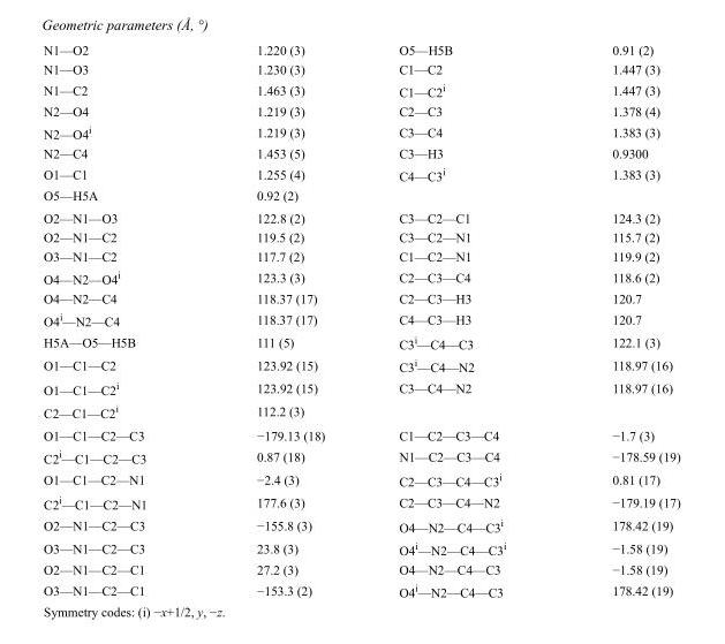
<table><tbody><tr><td>N1—O2</td><td>1.220 (3)</td><td>O5—H5B</td><td>0.91 (2)</td></tr><tr><td>N1—O3</td><td>1.230 (3)</td><td>C1—C2</td><td>1.447 (3)</td></tr><tr><td>N1—C2</td><td>1.463 (3)</td><td>C1—C2i</td><td>1.447 (3)</td></tr><tr><td>N2—O4</td><td>1.219 (3)</td><td>C2—C3</td><td>1.378 (4)</td></tr><tr><td>N2—O4i</td><td>1.219 (3)</td><td>C3—C4</td><td>1.383 (3)</td></tr><tr><td>N2—C4</td><td>1.453 (5)</td><td>C3—H3</td><td>0.9300</td></tr><tr><td>O1—C1</td><td>1.255 (4)</td><td>C4—C3i</td><td>1.383 (3)</td></tr><tr><td>O5—H5A</td><td>0.92 (2)</td><td></td><td></td></tr><tr><td>O2—N1—O3</td><td>122.8 (2)</td><td>C3—C2—C1</td><td>124.3 (2)</td></tr><tr><td>O2—N1—C2</td><td>119.5 (2)</td><td>C3—C2—N1</td><td>115.7 (2)</td></tr><tr><td>O3—N1—C2</td><td>117.7 (2)</td><td>C1—C2—N1</td><td>119.9 (2)</td></tr><tr><td>O4—N2—O4i</td><td>123.3 (3)</td><td>C2—C3—C4</td><td>118.6 (2)</td></tr><tr><td>O4—N2—C4</td><td>118.37 (17)</td><td>C2—C3—H3</td><td>120.7</td></tr><tr><td>O4i—N2—C4</td><td>118.37 (17)</td><td>C4—C3—H3</td><td>120.7</td></tr><tr><td>H5A—O5—H5B</td><td>111 (5)</td><td>C3i—C4—C3</td><td>122.1 (3)</td></tr><tr><td>O1—C1—C2</td><td>123.92 (15)</td><td>C3i—C4—N2</td><td>118.97 (16)</td></tr><tr><td>O1—C1—C2i</td><td>123.92 (15)</td><td>C3—C4—N2</td><td>118.97 (16)</td></tr><tr><td>C2—C1—C2i</td><td>112.2 (3)</td><td></td><td></td></tr><tr><td>O1—C1—C2—C3</td><td>−179.13 (18)</td><td>C1—C2—C3—C4</td><td>−1.7 (3)</td></tr><tr><td>C2i—C1—C2—C3</td><td>0.87 (18)</td><td>N1—C2—C3—C4</td><td>−178.59 (19)</td></tr><tr><td>O1—C1—C2—N1</td><td>−2.4 (3)</td><td>C2—C3—C4—C3i</td><td>0.81 (17)</td></tr><tr><td>C2i—C1—C2—N1</td><td>177.6 (3)</td><td>C2—C3—C4—N2</td><td>−179.19 (17)</td></tr><tr><td>O2—N1—C2—C3</td><td>−155.8 (3)</td><td>O4—N2—C4—C3i</td><td>178.42 (19)</td></tr><tr><td>O3—N1—C2—C3</td><td>23.8 (3)</td><td>O4i—N2—C4—C3i</td><td>−1.58 (19)</td></tr><tr><td>O2—N1—C2—C1</td><td>27.2 (3)</td><td>O4—N2—C4—C3</td><td>−1.58 (19)</td></tr><tr><td>O3—N1—C2—C1</td><td>−153.3 (2)</td><td>O4i—N2—C4—C3</td><td>178.42 (19)</td></tr></tbody></table>